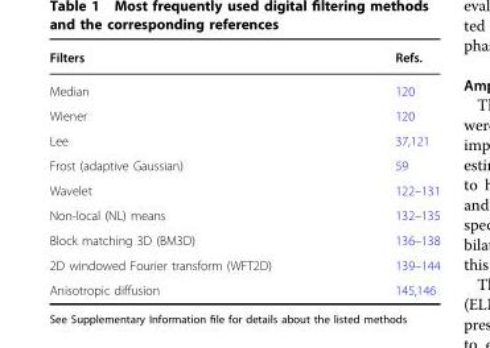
<table><thead><tr><td>Filters</td><td>Refs.</td></tr></thead><tbody><tr><td>Median</td><td>120</td></tr><tr><td>Wiener</td><td>120</td></tr><tr><td>Lee</td><td>37,121</td></tr><tr><td>Frost (adaptive Gaussian)</td><td>59</td></tr><tr><td>Wavelet</td><td>122–131</td></tr><tr><td>Non-local (NL) means</td><td>132–135</td></tr><tr><td>Block matching 3D (BM3D)</td><td>136–138</td></tr><tr><td>2D windowed Fourier transform (WFT2D)</td><td>139–144</td></tr><tr><td>Anisotropic diffusion</td><td>145,146</td></tr></tbody></table>